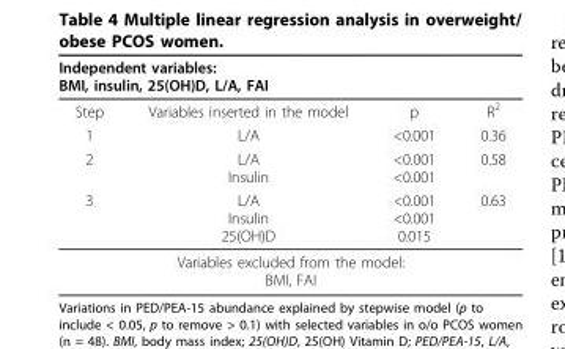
<table><thead><tr><td colspan="4">Independent variables: BMI, insulin, 25(OH)D, L/A, FAI</td></tr><tr><td>Step</td><td>Variables inserted in the model</td><td>p</td><td>R<sup>2</sup></td></tr></thead><tbody><tr><td>1</td><td>L/A</td><td>&lt;0.001</td><td>0.36</td></tr><tr><td>2</td><td>L/A Insulin</td><td>&lt;0.001 &lt;0.001</td><td>0.58</td></tr><tr><td>3</td><td>L/A Insulin 25(OH)D</td><td>&lt;0.001 &lt;0.001 0.015</td><td>0.63</td></tr><tr><td colspan="4">Variables excluded from the model: BMI, FAI</td></tr></tbody></table>